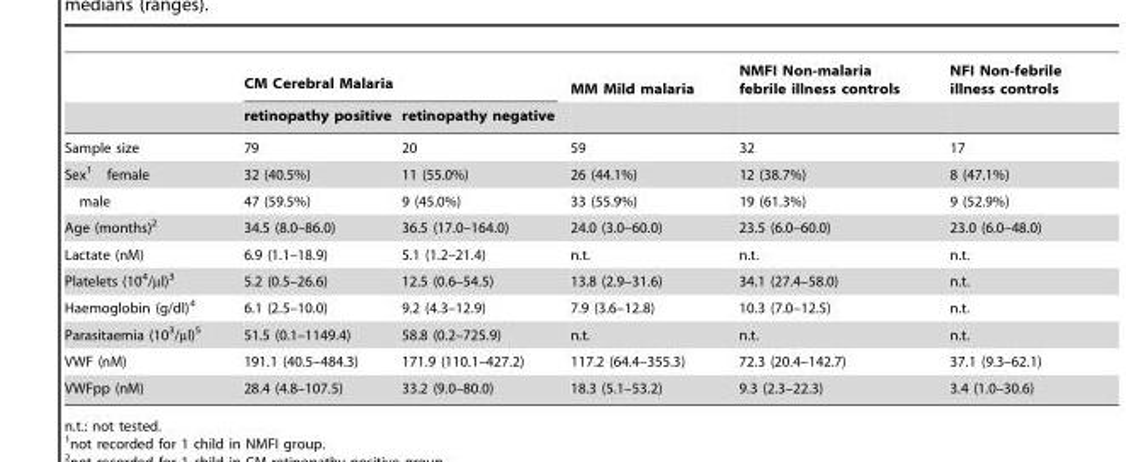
<table><thead><tr><td rowspan="2"></td><td colspan="2">CM Cerebral Malaria</td><td rowspan="2">MM Mild malaria</td><td rowspan="2">NMFI Non-malaria febrile illness controls</td><td rowspan="2">NFI Non-febrile illness controls</td></tr><tr><td>retinopathy positive</td><td>retinopathy negative</td></tr></thead><tbody><tr><td>Sample size</td><td>79</td><td>20</td><td>59</td><td>32</td><td>17</td></tr><tr><td>Sex<sup>1</sup> female</td><td>32 (40.5%)</td><td>11 (55.0%)</td><td>26 (44.1%)</td><td>12 (38.7%)</td><td>8 (47.1%)</td></tr><tr><td>male</td><td>47 (59.5%)</td><td>9 (45.0%)</td><td>33 (55.9%)</td><td>19 (61.3%)</td><td>9 (52.9%)</td></tr><tr><td>Age (months)<sup>2</sup></td><td>34.5 (8.0–86.0)</td><td>36.5 (17.0–164.0)</td><td>24.0 (3.0–60.0)</td><td>23.5 (6.0–60.0)</td><td>23.0 (6.0–48.0)</td></tr><tr><td>Lactate (nM)</td><td>6.9 (1.1–18.9)</td><td>5.1 (1.2–21.4)</td><td>n.t.</td><td>n.t.</td><td>n.t.</td></tr><tr><td>Platelets (10<sup>4</sup>/µl)<sup>3</sup></td><td>5.2 (0.5–26.6)</td><td>12.5 (0.6–54.5)</td><td>13.8 (2.9–31.6)</td><td>34.1 (27.4–58.0)</td><td>n.t.</td></tr><tr><td>Haemoglobin (g/dl)<sup>4</sup></td><td>6.1 (2.5–10.0)</td><td>9.2 (4.3–12.9)</td><td>7.9 (3.6–12.8)</td><td>10.3 (7.0–12.5)</td><td>n.t.</td></tr><tr><td>Parasitaemia (10<sup>3</sup>/µl)<sup>5</sup></td><td>51.5 (0.1–1149.4)</td><td>58.8 (0.2–725.9)</td><td>n.t.</td><td>n.t.</td><td>n.t.</td></tr><tr><td>VWF (nM)</td><td>191.1 (40.5–484.3)</td><td>171.9 (110.1–427.2)</td><td>117.2 (64.4–355.3)</td><td>72.3 (20.4–142.7)</td><td>37.1 (9.3–62.1)</td></tr><tr><td>VWFpp (nM)</td><td>28.4 (4.8–107.5)</td><td>33.2 (9.0–80.0)</td><td>18.3 (5.1–53.2)</td><td>9.3 (2.3–22.3)</td><td>3.4 (1.0–30.6)</td></tr></tbody></table>